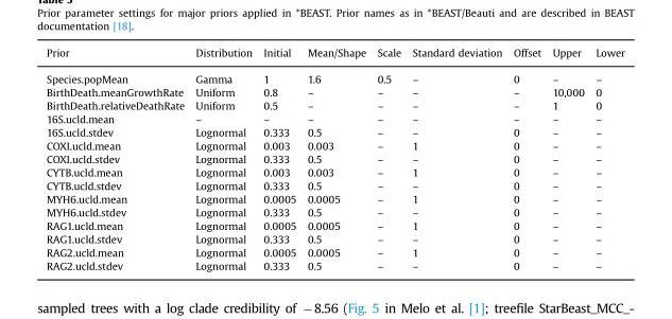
<table><thead><tr><td>Prior</td><td>Distribution</td><td>Initial</td><td>Mean/Shape</td><td>Scale</td><td>Standard deviation</td><td>Offset</td><td>Upper</td><td>Lower</td></tr></thead><tbody><tr><td>Species.popMean</td><td>Gamma</td><td>1</td><td>1.6</td><td>0.5</td><td>–</td><td>0</td><td>–</td><td>–</td></tr><tr><td>BirthDeath.meanGrowthRate</td><td>Uniform</td><td>0.8</td><td>–</td><td>–</td><td>–</td><td>–</td><td>10,000</td><td>0</td></tr><tr><td>BirthDeath.relativeDeathRate</td><td>Uniform</td><td>0.5</td><td>–</td><td>–</td><td>–</td><td>–</td><td>1</td><td>0</td></tr><tr><td>16S.ucld.mean</td><td>–</td><td>–</td><td>–</td><td>–</td><td>–</td><td>–</td><td>–</td><td>–</td></tr><tr><td>16S.ucld.stdev</td><td>Lognormal</td><td>0.333</td><td>0.5</td><td>–</td><td>–</td><td>0</td><td>–</td><td>–</td></tr><tr><td>COXI.ucld.mean</td><td>Lognormal</td><td>0.003</td><td>0.003</td><td>–</td><td>1</td><td>0</td><td>–</td><td>–</td></tr><tr><td>COXI.ucld.stdev</td><td>Lognormal</td><td>0.333</td><td>0.5</td><td>–</td><td>–</td><td>0</td><td>–</td><td>–</td></tr><tr><td>CYTB.ucld.mean</td><td>Lognormal</td><td>0.003</td><td>0.003</td><td>–</td><td>1</td><td>0</td><td>–</td><td>–</td></tr><tr><td>CYTB.ucld.stdev</td><td>Lognormal</td><td>0.333</td><td>0.5</td><td>–</td><td>–</td><td>0</td><td>–</td><td>–</td></tr><tr><td>MYH6.ucld.mean</td><td>Lognormal</td><td>0.0005</td><td>0.0005</td><td>–</td><td>1</td><td>0</td><td>–</td><td>–</td></tr><tr><td>MYH6.ucld.stdev</td><td>Lognormal</td><td>0.333</td><td>0.5</td><td>–</td><td>–</td><td>0</td><td>–</td><td>–</td></tr><tr><td>RAG1.ucld.mean</td><td>Lognormal</td><td>0.0005</td><td>0.0005</td><td>–</td><td>1</td><td>0</td><td>–</td><td>–</td></tr><tr><td>RAG1.ucld.stdev</td><td>Lognormal</td><td>0.333</td><td>0.5</td><td>–</td><td>–</td><td>0</td><td>–</td><td>–</td></tr><tr><td>RAG2.ucld.mean</td><td>Lognormal</td><td>0.0005</td><td>0.0005</td><td>–</td><td>1</td><td>0</td><td>–</td><td>–</td></tr><tr><td>RAG2.ucld.stdev</td><td>Lognormal</td><td>0.333</td><td>0.5</td><td>–</td><td>–</td><td>0</td><td>–</td><td>–</td></tr></tbody></table>